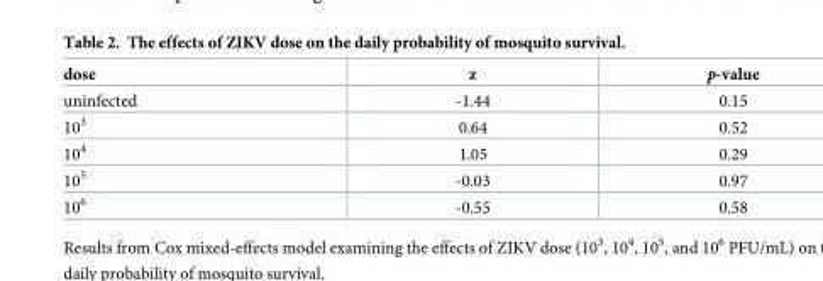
<table><thead><tr><td>dose</td><td>z</td><td>p-value</td></tr></thead><tbody><tr><td>uninfected</td><td>-1.44</td><td>0.15</td></tr><tr><td>10<sup>3</sup></td><td>0.64</td><td>0.52</td></tr><tr><td>10<sup>4</sup></td><td>1.05</td><td>0.29</td></tr><tr><td>10<sup>5</sup></td><td>-0.03</td><td>0.97</td></tr><tr><td>10<sup>6</sup></td><td>-0.55</td><td>0.58</td></tr></tbody></table>